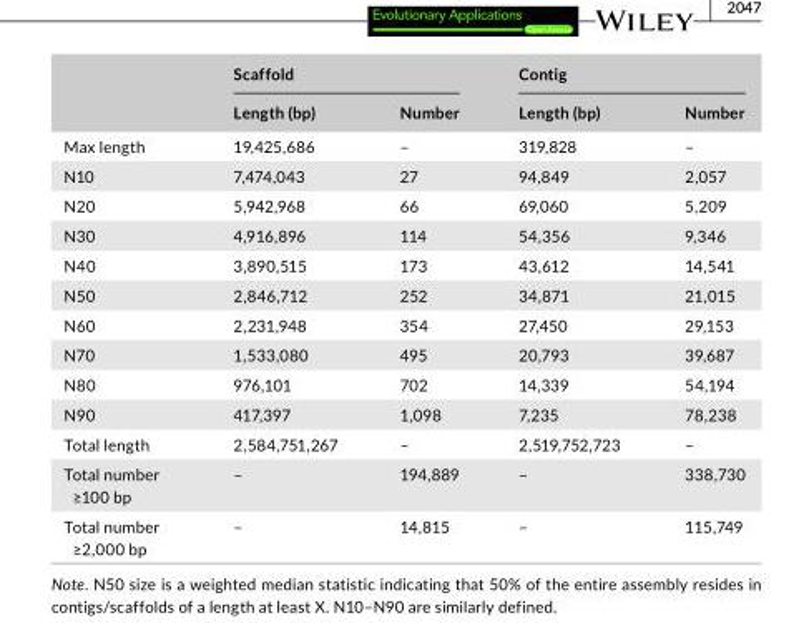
<table><thead><tr><td rowspan="2"></td><td colspan="2">Scaffold</td><td colspan="2">Contig</td></tr><tr><td>Length (bp)</td><td>Number</td><td>Length (bp)</td><td>Number</td></tr></thead><tbody><tr><td>Max length</td><td>19,425,686</td><td>–</td><td>319,828</td><td>–</td></tr><tr><td>N10</td><td>7,474,043</td><td>27</td><td>94,849</td><td>2,057</td></tr><tr><td>N20</td><td>5,942,968</td><td>66</td><td>69,060</td><td>5,209</td></tr><tr><td>N30</td><td>4,916,896</td><td>114</td><td>54,356</td><td>9,346</td></tr><tr><td>N40</td><td>3,890,515</td><td>173</td><td>43,612</td><td>14,541</td></tr><tr><td>N50</td><td>2,846,712</td><td>252</td><td>34,871</td><td>21,015</td></tr><tr><td>N60</td><td>2,231,948</td><td>354</td><td>27,450</td><td>29,153</td></tr><tr><td>N70</td><td>1,533,080</td><td>495</td><td>20,793</td><td>39,687</td></tr><tr><td>N80</td><td>976,101</td><td>702</td><td>14,339</td><td>54,194</td></tr><tr><td>N90</td><td>417,397</td><td>1,098</td><td>7,235</td><td>78,238</td></tr><tr><td>Total length</td><td>2,584,751,267</td><td>–</td><td>2,519,752,723</td><td>–</td></tr><tr><td>Total number ≥100 bp</td><td>–</td><td>194,889</td><td>–</td><td>338,730</td></tr><tr><td>Total number ≥2,000 bp</td><td>–</td><td>14,815</td><td>–</td><td>115,749</td></tr></tbody></table>